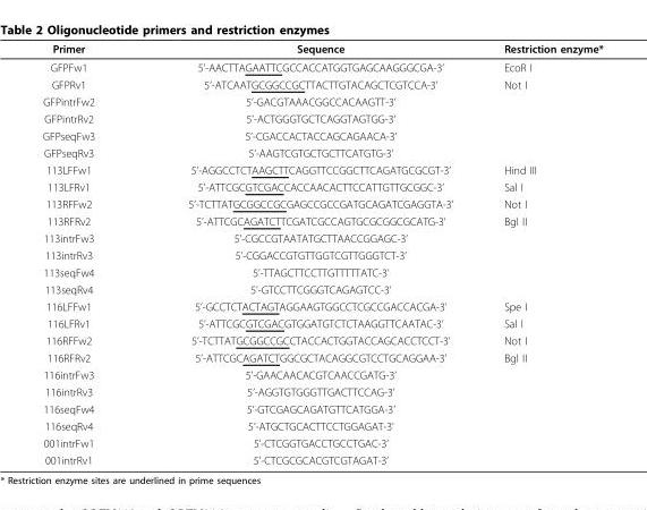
<table><thead><tr><td>Primer</td><td>Sequence</td><td>Restriction enzyme*</td></tr></thead><tbody><tr><td>GFPFw1</td><td>5’-AACTTAGAATTCGCCACCATGGTGAGCAAGGGCGA-3’</td><td>EcoR I</td></tr><tr><td>GFPRv1</td><td>5’-ATCAATGCGGCCGCTTACTTGTACAGCTCGTCCA-3’</td><td>Not I</td></tr><tr><td>GFPintrFw2</td><td>5’-GACGTAAACGGCCACAAGTT-3’</td><td></td></tr><tr><td>GFPintrRv2</td><td>5’-ACTGGGTGCTCAGGTAGTGG-3’</td><td></td></tr><tr><td>GFPseqFw3</td><td>5’-CGACCACTACCAGCAGAACA-3’</td><td></td></tr><tr><td>GFPseqRv3</td><td>5’-AAGTCGTGCTGCTTCATGTG-3’</td><td></td></tr><tr><td>113LFFw1</td><td>5’-AGGCCTCTAAGCTTCAGGTTCCGGCTTCAGATGCGCGT-3’</td><td>Hind III</td></tr><tr><td>113LFRv1</td><td>5’-ATTCGCGTCGACCACCAACACTTCCATTGTTGCGGC-3’</td><td>Sal I</td></tr><tr><td>113RFFw2</td><td>5’-TCTTATGCGGCCGCGAGCCGCCGATGCAGATCGAGGTA-3’</td><td>Not I</td></tr><tr><td>113RFRv2</td><td>5’-ATTCGCAGATCTTCGATCGCCAGTGCGCGGCGCATG-3’</td><td>Bgl II</td></tr><tr><td>113intrFw3</td><td>5’-CGCCGTAATATGCTTAACCGGAGC-3’</td><td></td></tr><tr><td>113intrRv3</td><td>5’-CGGACCGTGTTGGTCGTTGGGTCT-3’</td><td></td></tr><tr><td>113seqFw4</td><td>5’-TTAGCTTCCTTGTTTTTATC-3’</td><td></td></tr><tr><td>113seqRv4</td><td>5’-GTCCTTCGGGTCAGAGTCC-3’</td><td></td></tr><tr><td>116LFFw1</td><td>5’-GCCTCTACTAGTAGGAAGTGGCCTCGCCGACCACGA-3’</td><td>Spe I</td></tr><tr><td>116LFRv1</td><td>5’-ATTCGCGTCGACGTGGATGTCTCTAAGGTTCAATAC-3’</td><td>Sal I</td></tr><tr><td>116RFFw2</td><td>5’-TCTTATGCGGCCGCCTACCACTGGTACCAGCACCTCCT-3’</td><td>Not I</td></tr><tr><td>116RFRv2</td><td>5’-ATTCGCAGATCTGGCGCTACAGGCGTCCTGCAGGAA-3’</td><td>Bgl II</td></tr><tr><td>116intrFw3</td><td>5’-GAACAACACGTCAACCGATG-3’</td><td></td></tr><tr><td>116intrRv3</td><td>5’-AGGTGTGGGTTGACTTCCAG-3’</td><td></td></tr><tr><td>116seqFw4</td><td>5’-GTCGAGCAGATGTTCATGGA-3’</td><td></td></tr><tr><td>116seqRv4</td><td>5’-ATGCTGCACTTCCTGGAGAT-3’</td><td></td></tr><tr><td>001intrFw1</td><td>5’-CTCGGTGACCTGCCTGAC-3’</td><td></td></tr><tr><td>001intrRv1</td><td>5’-CTCGCGCACGTCGTAGAT-3’</td><td></td></tr></tbody></table>